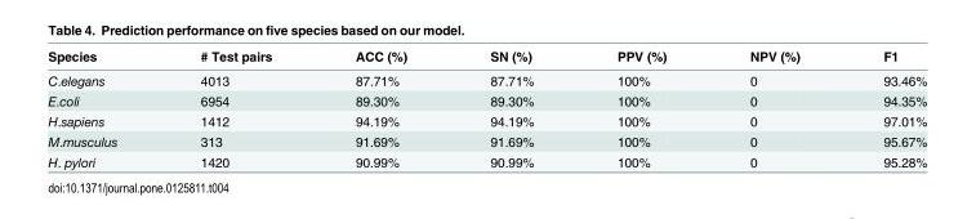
<table><thead><tr><td>Species</td><td># Test pairs</td><td>ACC (%)</td><td>SN (%)</td><td>PPV (%)</td><td>NPV (%)</td><td>F1</td></tr></thead><tbody><tr><td>C.elegans</td><td>4013</td><td>87.71%</td><td>87.71%</td><td>100%</td><td>0</td><td>93.46%</td></tr><tr><td>E.coli</td><td>6954</td><td>89.30%</td><td>89.30%</td><td>100%</td><td>0</td><td>94.35%</td></tr><tr><td>H.sapiens</td><td>1412</td><td>94.19%</td><td>94.19%</td><td>100%</td><td>0</td><td>97.01%</td></tr><tr><td>M.musculus</td><td>313</td><td>91.69%</td><td>91.69%</td><td>100%</td><td>0</td><td>95.67%</td></tr><tr><td>H. pylori</td><td>1420</td><td>90.99%</td><td>90.99%</td><td>100%</td><td>0</td><td>95.28%</td></tr></tbody></table>